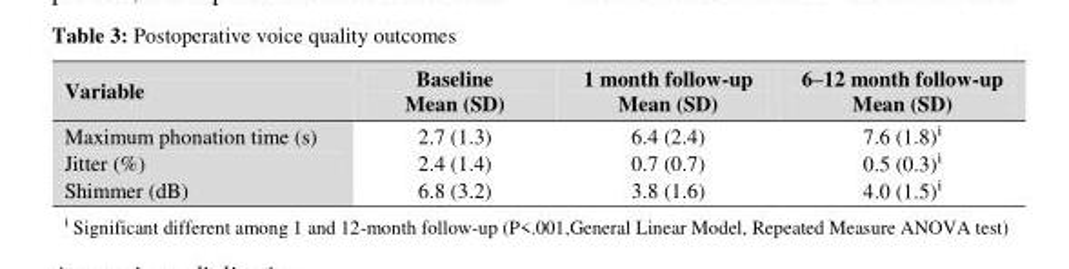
<table><thead><tr><td>Variable</td><td>Baseline Mean (SD)</td><td>1 month follow-up Mean (SD)</td><td>6–12 month follow-up Mean (SD)</td></tr></thead><tbody><tr><td>Maximum phonation time (s) Jitter (%) Shimmer (dB)</td><td>2.7 (1.3) 2.4 (1.4) 6.8 (3.2)</td><td>6.4 (2.4) 0.7 (0.7) 3.8 (1.6)</td><td>7.6 (1.8)ⁱ 0.5 (0.3)ⁱ 4.0 (1.5)ⁱ</td></tr></tbody></table>